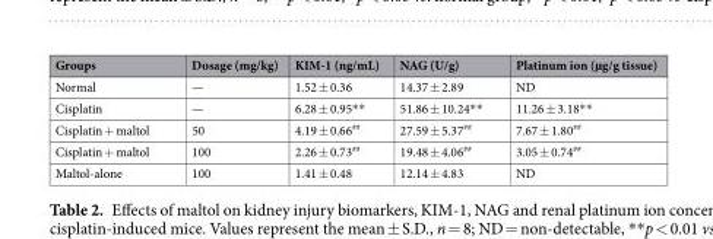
<table><thead><tr><td>Groups</td><td>Dosage (mg/kg)</td><td>KIM-1 (ng/mL)</td><td>NAG (U/g)</td><td>Platinum ion (µg/g tissue)</td></tr></thead><tbody><tr><td>Normal</td><td>—</td><td>1.52 ± 0.36</td><td>14.37 ± 2.89</td><td>ND</td></tr><tr><td>Cisplatin</td><td>—</td><td>6.28 ± 0.95**</td><td>51.86 ± 10.24**</td><td>11.26 ± 3.18**</td></tr><tr><td>Cisplatin + maltol</td><td>50</td><td>4.19 ± 0.66<sup>##</sup></td><td>27.59 ± 5.37<sup>##</sup></td><td>7.67 ± 1.80<sup>##</sup></td></tr><tr><td>Cisplatin + maltol</td><td>100</td><td>2.26 ± 0.73<sup>##</sup></td><td>19.48 ± 4.06<sup>##</sup></td><td>3.05 ± 0.74<sup>##</sup></td></tr><tr><td>Maltol-alone</td><td>100</td><td>1.41 ± 0.48</td><td>12.14 ± 4.83</td><td>ND</td></tr></tbody></table>